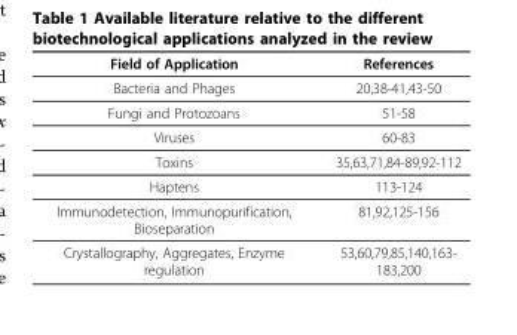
<table><thead><tr><td>Field of Application</td><td>References</td></tr></thead><tbody><tr><td>Bacteria and Phages</td><td>20,38-41,43-50</td></tr><tr><td>Fungi and Protozoans</td><td>51-58</td></tr><tr><td>Viruses</td><td>60-83</td></tr><tr><td>Toxins</td><td>35,63,71,84-89,92-112</td></tr><tr><td>Haptens</td><td>113-124</td></tr><tr><td>Immunodetection, Immunopurification, Bioseparation</td><td>81,92,125-156</td></tr><tr><td>Crystallography, Aggregates, Enzyme regulation</td><td>53,60,79,85,140,163- 183,200</td></tr></tbody></table>